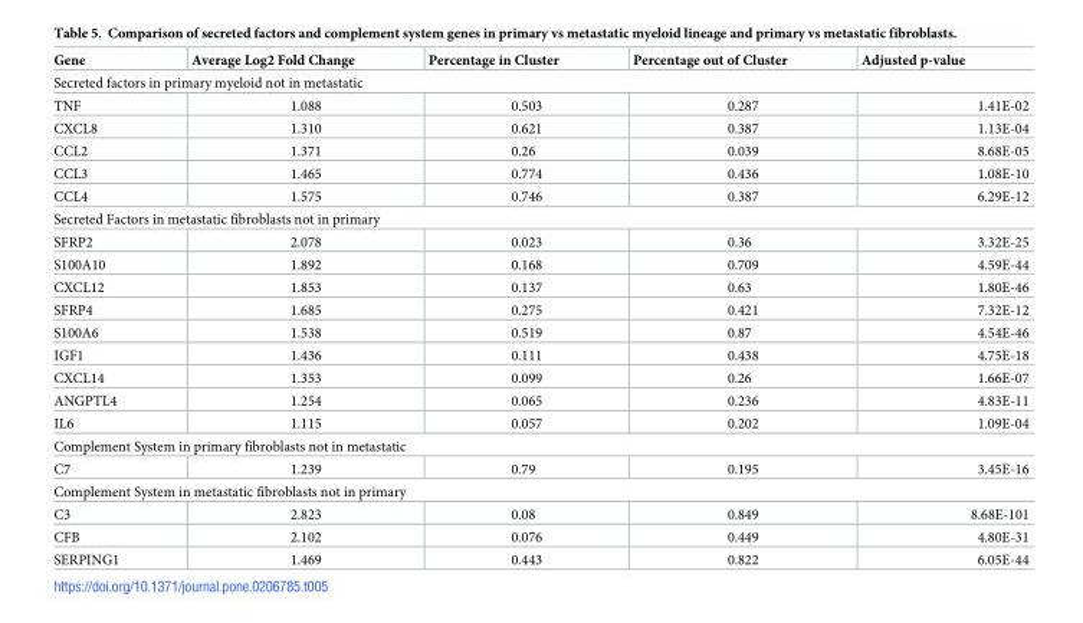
<table><thead><tr><td>Gene</td><td>Average Log2 Fold Change</td><td>Percentage in Cluster</td><td>Percentage out of Cluster</td><td>Adjusted p-value</td></tr></thead><tbody><tr><td colspan="5">Secreted factors in primary myeloid not in metastatic</td></tr><tr><td>TNF</td><td>1.088</td><td>0.503</td><td>0.287</td><td>1.41E-02</td></tr><tr><td>CXCL8</td><td>1.310</td><td>0.621</td><td>0.387</td><td>1.13E-04</td></tr><tr><td>CCL2</td><td>1.371</td><td>0.26</td><td>0.039</td><td>8.68E-05</td></tr><tr><td>CCL3</td><td>1.465</td><td>0.774</td><td>0.436</td><td>1.08E-10</td></tr><tr><td>CCL4</td><td>1.575</td><td>0.746</td><td>0.387</td><td>6.29E-12</td></tr><tr><td colspan="5">Secreted Factors in metastatic fibroblasts not in primary</td></tr><tr><td>SFRP2</td><td>2.078</td><td>0.023</td><td>0.36</td><td>3.32E-25</td></tr><tr><td>S100A10</td><td>1.892</td><td>0.168</td><td>0.709</td><td>4.59E-44</td></tr><tr><td>CXCL12</td><td>1.853</td><td>0.137</td><td>0.63</td><td>1.80E-46</td></tr><tr><td>SFRP4</td><td>1.685</td><td>0.275</td><td>0.421</td><td>7.32E-12</td></tr><tr><td>S100A6</td><td>1.538</td><td>0.519</td><td>0.87</td><td>4.54E-46</td></tr><tr><td>IGF1</td><td>1.436</td><td>0.111</td><td>0.438</td><td>4.75E-18</td></tr><tr><td>CXCL14</td><td>1.353</td><td>0.099</td><td>0.26</td><td>1.66E-07</td></tr><tr><td>ANGPTL4</td><td>1.254</td><td>0.065</td><td>0.236</td><td>4.83E-11</td></tr><tr><td>IL6</td><td>1.115</td><td>0.057</td><td>0.202</td><td>1.09E-04</td></tr><tr><td colspan="5">Complement System in primary fibroblasts not in metastatic</td></tr><tr><td>C7</td><td>1.239</td><td>0.79</td><td>0.195</td><td>3.45E-16</td></tr><tr><td colspan="5">Complement System in metastatic fibroblasts not in primary</td></tr><tr><td>C3</td><td>2.823</td><td>0.08</td><td>0.849</td><td>8.68E-101</td></tr><tr><td>CFB</td><td>2.102</td><td>0.076</td><td>0.449</td><td>4.80E-31</td></tr><tr><td>SERPING1</td><td>1.469</td><td>0.443</td><td>0.822</td><td>6.05E-44</td></tr></tbody></table>